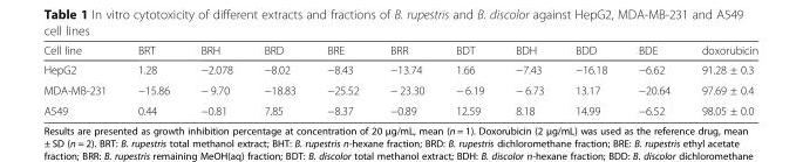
<table><thead><tr><td>Cell line</td><td>BRT</td><td>BRH</td><td>BRD</td><td>BRE</td><td>BRR</td><td>BDT</td><td>BDH</td><td>BDD</td><td>BDE</td><td>doxorubicin</td></tr></thead><tbody><tr><td>HepG2</td><td>1.28</td><td>−2.078</td><td>−8.02</td><td>−8.43</td><td>−13.74</td><td>1.66</td><td>−7.43</td><td>−16.18</td><td>−6.62</td><td>91.28 ± 0.3</td></tr><tr><td>MDA-MB-231</td><td>−15.86</td><td>− 9.70</td><td>−18.83</td><td>−25.52</td><td>− 23.30</td><td>− 6.19</td><td>− 6.73</td><td>13.17</td><td>−20.64</td><td>97.69 ± 0.4</td></tr><tr><td>A549</td><td>0.44</td><td>−0.81</td><td>7.85</td><td>−8.37</td><td>−0.89</td><td>12.59</td><td>8.18</td><td>14.99</td><td>−6.52</td><td>98.05 ± 0.0</td></tr></tbody></table>